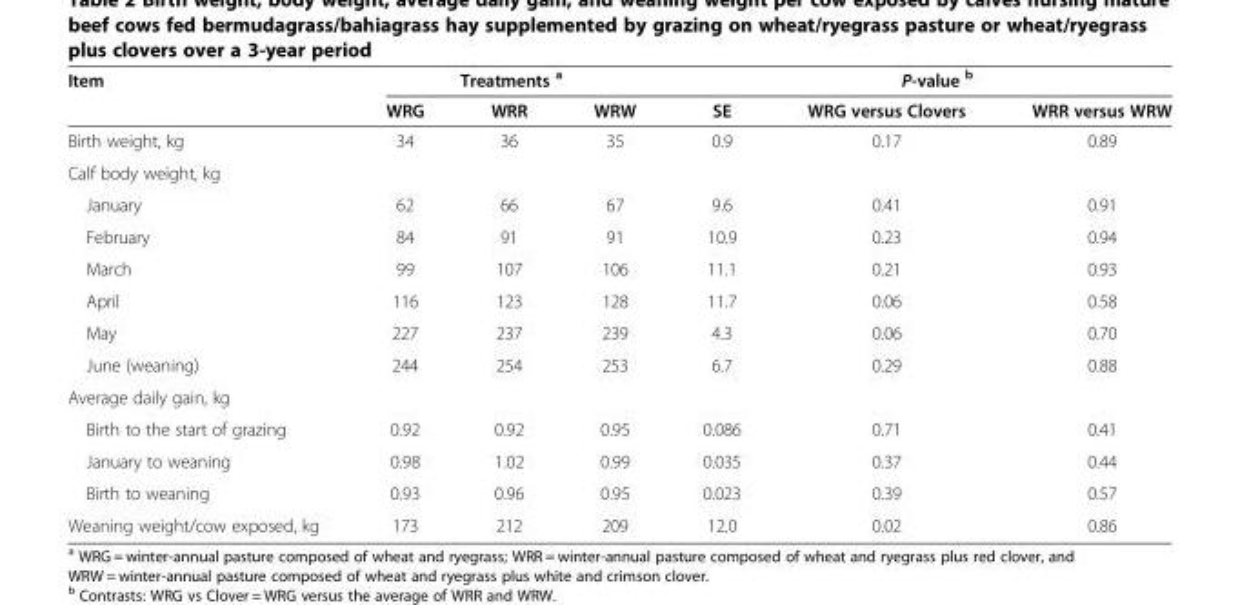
<table><thead><tr><td rowspan="2">Item</td><td colspan="3">Treatments <sup>a</sup></td><td colspan="3">P-value <sup>b</sup></td></tr><tr><td>WRG</td><td>WRR</td><td>WRW</td><td>SE</td><td>WRG versus Clovers</td><td>WRR versus WRW</td></tr></thead><tbody><tr><td>Birth weight, kg</td><td>34</td><td>36</td><td>35</td><td>0.9</td><td>0.17</td><td>0.89</td></tr><tr><td colspan="7">Calf body weight, kg</td></tr><tr><td>January</td><td>62</td><td>66</td><td>67</td><td>9.6</td><td>0.41</td><td>0.91</td></tr><tr><td>February</td><td>84</td><td>91</td><td>91</td><td>10.9</td><td>0.23</td><td>0.94</td></tr><tr><td>March</td><td>99</td><td>107</td><td>106</td><td>11.1</td><td>0.21</td><td>0.93</td></tr><tr><td>April</td><td>116</td><td>123</td><td>128</td><td>11.7</td><td>0.06</td><td>0.58</td></tr><tr><td>May</td><td>227</td><td>237</td><td>239</td><td>4.3</td><td>0.06</td><td>0.70</td></tr><tr><td>June (weaning)</td><td>244</td><td>254</td><td>253</td><td>6.7</td><td>0.29</td><td>0.88</td></tr><tr><td colspan="7">Average daily gain, kg</td></tr><tr><td>Birth to the start of grazing</td><td>0.92</td><td>0.92</td><td>0.95</td><td>0.086</td><td>0.71</td><td>0.41</td></tr><tr><td>January to weaning</td><td>0.98</td><td>1.02</td><td>0.99</td><td>0.035</td><td>0.37</td><td>0.44</td></tr><tr><td>Birth to weaning</td><td>0.93</td><td>0.96</td><td>0.95</td><td>0.023</td><td>0.39</td><td>0.57</td></tr><tr><td>Weaning weight/cow exposed, kg</td><td>173</td><td>212</td><td>209</td><td>12.0</td><td>0.02</td><td>0.86</td></tr></tbody></table>